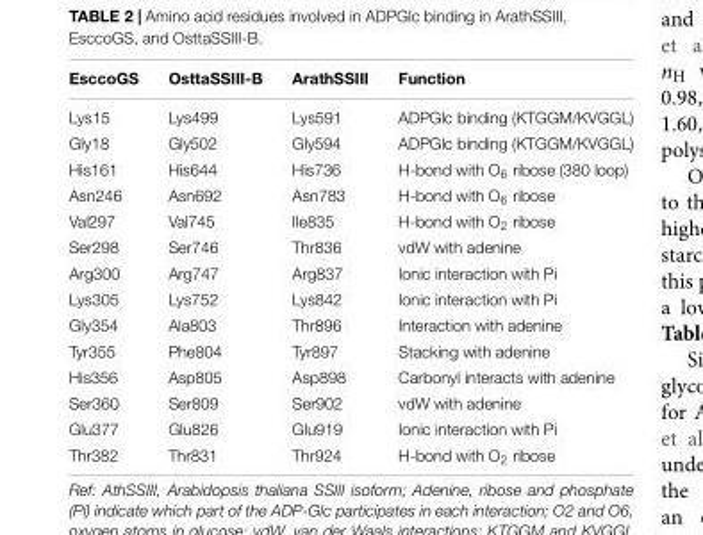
<table><thead><tr><td>EsccoGS</td><td>OsttaSSIII-B</td><td>ArathSSIII</td><td>Function</td></tr></thead><tbody><tr><td>Lys15</td><td>Lys499</td><td>Lys591</td><td>ADPGlc binding (KTGGM/KVGGL)</td></tr><tr><td>Gly18</td><td>Gly502</td><td>Gly594</td><td>ADPGlc binding (KTGGM/KVGGL)</td></tr><tr><td>His161</td><td>His644</td><td>His736</td><td>H-bond with O<sub>6</sub> ribose (380 loop)</td></tr><tr><td>Asn246</td><td>Asn692</td><td>Asn783</td><td>H-bond with O<sub>6</sub> ribose</td></tr><tr><td>Val297</td><td>Val745</td><td>Ile835</td><td>H-bond with O<sub>2</sub> ribose</td></tr><tr><td>Ser298</td><td>Ser746</td><td>Thr836</td><td>vdW with adenine</td></tr><tr><td>Arg300</td><td>Arg747</td><td>Arg837</td><td>Ionic interaction with Pi</td></tr><tr><td>Lys305</td><td>Lys752</td><td>Lys842</td><td>Ionic interaction with Pi</td></tr><tr><td>Gly354</td><td>Ala803</td><td>Thr896</td><td>Interaction with adenine</td></tr><tr><td>Tyr355</td><td>Phe804</td><td>Tyr897</td><td>Stacking with adenine</td></tr><tr><td>His356</td><td>Asp805</td><td>Asp898</td><td>Carbonyl interacts with adenine</td></tr><tr><td>Ser360</td><td>Ser809</td><td>Ser902</td><td>vdW with adenine</td></tr><tr><td>Glu377</td><td>Glu826</td><td>Glu919</td><td>Ionic interaction with Pi</td></tr><tr><td>Thr382</td><td>Thr831</td><td>Thr924</td><td>H-bond with O<sub>2</sub> ribose</td></tr></tbody></table>